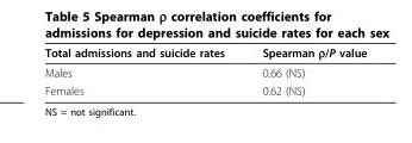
<table><thead><tr><td>Total admissions and suicide rates</td><td>Spearman ρ/P value</td></tr></thead><tbody><tr><td>Males</td><td>0.66 (NS)</td></tr><tr><td>Females</td><td>0.62 (NS)</td></tr></tbody></table>